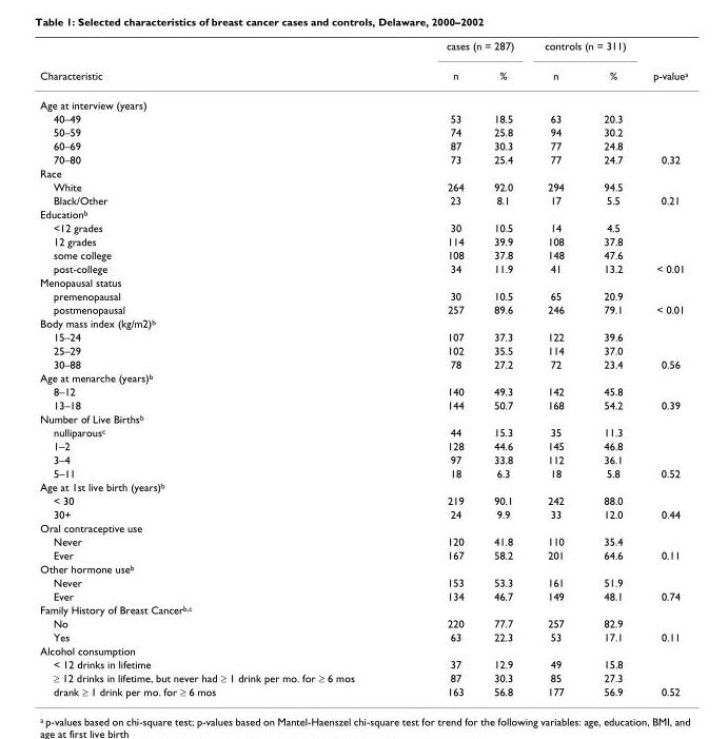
<table><thead><tr><td rowspan="2">Characteristic</td><td colspan="2">cases (n = 287)</td><td colspan="2">controls (n = 311)</td><td rowspan="2">p-value<sup>a</sup></td></tr><tr><td>n</td><td>%</td><td>n</td><td>%</td></tr></thead><tbody><tr><td colspan="6">Age at interview (years)</td></tr><tr><td>40–49</td><td>53</td><td>18.5</td><td>63</td><td>20.3</td><td></td></tr><tr><td>50–59</td><td>74</td><td>25.8</td><td>94</td><td>30.2</td><td></td></tr><tr><td>60–69</td><td>87</td><td>30.3</td><td>77</td><td>24.8</td><td></td></tr><tr><td>70–80</td><td>73</td><td>25.4</td><td>77</td><td>24.7</td><td>0.32</td></tr><tr><td colspan="6">Race</td></tr><tr><td>White</td><td>264</td><td>92.0</td><td>294</td><td>94.5</td><td></td></tr><tr><td>Black/Other</td><td>23</td><td>8.1</td><td>17</td><td>5.5</td><td>0.21</td></tr><tr><td colspan="6">Education<sup>b</sup></td></tr><tr><td>&lt;12 grades</td><td>30</td><td>10.5</td><td>14</td><td>4.5</td><td></td></tr><tr><td>12 grades</td><td>114</td><td>39.9</td><td>108</td><td>37.8</td><td></td></tr><tr><td>some college</td><td>108</td><td>37.8</td><td>148</td><td>47.6</td><td></td></tr><tr><td>post-college</td><td>34</td><td>11.9</td><td>41</td><td>13.2</td><td>&lt; 0.01</td></tr><tr><td colspan="6">Menopausal status</td></tr><tr><td>premenopausal</td><td>30</td><td>10.5</td><td>65</td><td>20.9</td><td></td></tr><tr><td>postmenopausal</td><td>257</td><td>89.6</td><td>246</td><td>79.1</td><td>&lt; 0.01</td></tr><tr><td colspan="6">Body mass index (kg/m2)<sup>b</sup></td></tr><tr><td>15–24</td><td>107</td><td>37.3</td><td>122</td><td>39.6</td><td></td></tr><tr><td>25–29</td><td>102</td><td>35.5</td><td>114</td><td>37.0</td><td></td></tr><tr><td>30–88</td><td>78</td><td>27.2</td><td>72</td><td>23.4</td><td>0.56</td></tr><tr><td colspan="6">Age at menarche (years)<sup>b</sup></td></tr><tr><td>8–12</td><td>140</td><td>49.3</td><td>142</td><td>45.8</td><td></td></tr><tr><td>13–18</td><td>144</td><td>50.7</td><td>168</td><td>54.2</td><td>0.39</td></tr><tr><td colspan="6">Number of Live Births<sup>b</sup></td></tr><tr><td>nulliparous<sup>c</sup></td><td>44</td><td>15.3</td><td>35</td><td>11.3</td><td></td></tr><tr><td>1–2</td><td>128</td><td>44.6</td><td>145</td><td>46.8</td><td></td></tr><tr><td>3–4</td><td>97</td><td>33.8</td><td>112</td><td>36.1</td><td></td></tr><tr><td>5–11</td><td>18</td><td>6.3</td><td>18</td><td>5.8</td><td>0.52</td></tr><tr><td colspan="6">Age at 1st live birth (years)<sup>b</sup></td></tr><tr><td>&lt; 30</td><td>219</td><td>90.1</td><td>242</td><td>88.0</td><td></td></tr><tr><td>30+</td><td>24</td><td>9.9</td><td>33</td><td>12.0</td><td>0.44</td></tr><tr><td colspan="6">Oral contraceptive use</td></tr><tr><td>Never</td><td>120</td><td>41.8</td><td>110</td><td>35.4</td><td></td></tr><tr><td>Ever</td><td>167</td><td>58.2</td><td>201</td><td>64.6</td><td>0.11</td></tr><tr><td colspan="6">Other hormone use<sup>b</sup></td></tr><tr><td>Never</td><td>153</td><td>53.3</td><td>161</td><td>51.9</td><td></td></tr><tr><td>Ever</td><td>134</td><td>46.7</td><td>149</td><td>48.1</td><td>0.74</td></tr><tr><td colspan="6">Family History of Breast Cancer<sup>b,c</sup></td></tr><tr><td>No</td><td>220</td><td>77.7</td><td>257</td><td>82.9</td><td></td></tr><tr><td>Yes</td><td>63</td><td>22.3</td><td>53</td><td>17.1</td><td>0.11</td></tr><tr><td colspan="6">Alcohol consumption</td></tr><tr><td>&lt; 12 drinks in lifetime</td><td>37</td><td>12.9</td><td>49</td><td>15.8</td><td></td></tr><tr><td>≥ 12 drinks in lifetime, but never had ≥ 1 drink per mo. for ≥ 6 mos</td><td>87</td><td>30.3</td><td>85</td><td>27.3</td><td></td></tr><tr><td>drank ≥ 1 drink per mo. for ≥ 6 mos</td><td>163</td><td>56.8</td><td>177</td><td>56.9</td><td>0.52</td></tr></tbody></table>